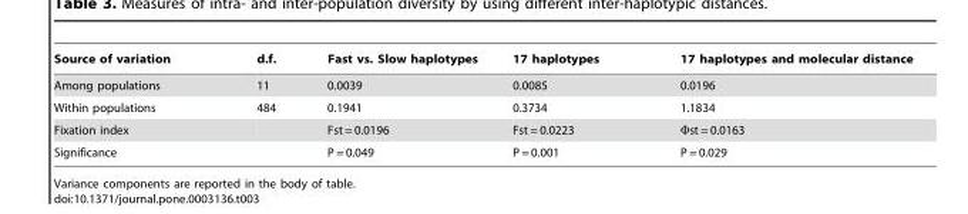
<table><thead><tr><td>Source of variation</td><td>d.f.</td><td>Fast vs. Slow haplotypes</td><td>17 haplotypes</td><td>17 haplotypes and molecular distance</td></tr></thead><tbody><tr><td>Among populations</td><td>11</td><td>0.0039</td><td>0.0085</td><td>0.0196</td></tr><tr><td>Within populations</td><td>484</td><td>0.1941</td><td>0.3734</td><td>1.1834</td></tr><tr><td>Fixation index</td><td></td><td>Fst = 0.0196</td><td>Fst = 0.0223</td><td>Φst = 0.0163</td></tr><tr><td>Significance</td><td></td><td>P = 0.049</td><td>P = 0.001</td><td>P = 0.029</td></tr></tbody></table>